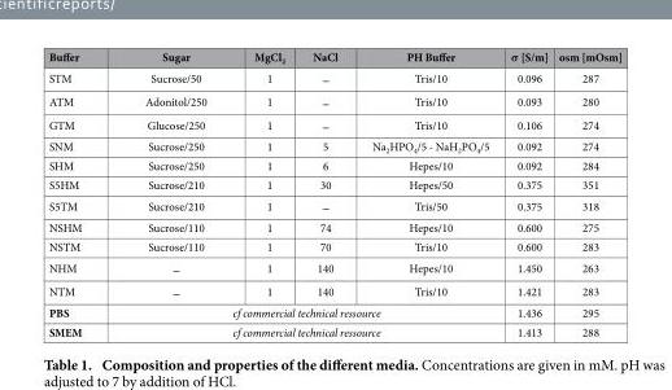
<table><thead><tr><td>Buffer</td><td>Sugar</td><td>MgCl<sub>2</sub></td><td>NaCl</td><td>PH Buffer</td><td>σ [S/m]</td><td>osm [mOsm]</td></tr></thead><tbody><tr><td>STM</td><td>Sucrose/50</td><td>1</td><td>–</td><td>Tris/10</td><td>0.096</td><td>287</td></tr><tr><td>ATM</td><td>Adonitol/250</td><td>1</td><td>–</td><td>Tris/10</td><td>0.093</td><td>280</td></tr><tr><td>GTM</td><td>Glucose/250</td><td>1</td><td>–</td><td>Tris/10</td><td>0.106</td><td>274</td></tr><tr><td>SNM</td><td>Sucrose/250</td><td>1</td><td>5</td><td>Na<sub>2</sub>HPO<sub>4</sub>/5 - NaH<sub>2</sub>PO<sub>4</sub>/5</td><td>0.092</td><td>274</td></tr><tr><td>SHM</td><td>Sucrose/250</td><td>1</td><td>6</td><td>Hepes/10</td><td>0.092</td><td>284</td></tr><tr><td>S5HM</td><td>Sucrose/210</td><td>1</td><td>30</td><td>Hepes/50</td><td>0.375</td><td>351</td></tr><tr><td>S5TM</td><td>Sucrose/210</td><td>1</td><td>–</td><td>Tris/50</td><td>0.375</td><td>318</td></tr><tr><td>NSHM</td><td>Sucrose/110</td><td>1</td><td>74</td><td>Hepes/10</td><td>0.600</td><td>275</td></tr><tr><td>NSTM</td><td>Sucrose/110</td><td>1</td><td>70</td><td>Tris/10</td><td>0.600</td><td>283</td></tr><tr><td>NHM</td><td>–</td><td>1</td><td>140</td><td>Hepes/10</td><td>1.450</td><td>263</td></tr><tr><td>NTM</td><td>–</td><td>1</td><td>140</td><td>Tris/10</td><td>1.421</td><td>283</td></tr><tr><td>PBS</td><td colspan="4">cf commercial technical ressource</td><td>1.436</td><td>295</td></tr><tr><td>SMEM</td><td colspan="4">cf commercial technical ressource</td><td>1.413</td><td>288</td></tr></tbody></table>